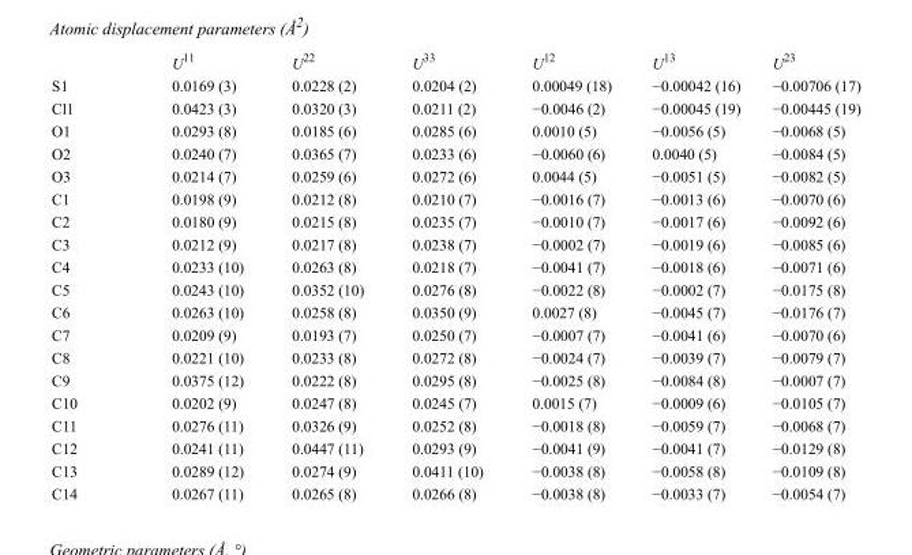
<table><thead><tr><td></td><td>U<sup>11</sup></td><td>U<sup>22</sup></td><td>U<sup>33</sup></td><td>U<sup>12</sup></td><td>U<sup>13</sup></td><td>U<sup>23</sup></td></tr></thead><tbody><tr><td>S1</td><td>0.0169 (3)</td><td>0.0228 (2)</td><td>0.0204 (2)</td><td>0.00049 (18)</td><td>−0.00042 (16)</td><td>−0.00706 (17)</td></tr><tr><td>Cl1</td><td>0.0423 (3)</td><td>0.0320 (3)</td><td>0.0211 (2)</td><td>−0.0046 (2)</td><td>−0.00045 (19)</td><td>−0.00445 (19)</td></tr><tr><td>O1</td><td>0.0293 (8)</td><td>0.0185 (6)</td><td>0.0285 (6)</td><td>0.0010 (5)</td><td>−0.0056 (5)</td><td>−0.0068 (5)</td></tr><tr><td>O2</td><td>0.0240 (7)</td><td>0.0365 (7)</td><td>0.0233 (6)</td><td>−0.0060 (6)</td><td>0.0040 (5)</td><td>−0.0084 (5)</td></tr><tr><td>O3</td><td>0.0214 (7)</td><td>0.0259 (6)</td><td>0.0272 (6)</td><td>0.0044 (5)</td><td>−0.0051 (5)</td><td>−0.0082 (5)</td></tr><tr><td>C1</td><td>0.0198 (9)</td><td>0.0212 (8)</td><td>0.0210 (7)</td><td>−0.0016 (7)</td><td>−0.0013 (6)</td><td>−0.0070 (6)</td></tr><tr><td>C2</td><td>0.0180 (9)</td><td>0.0215 (8)</td><td>0.0235 (7)</td><td>−0.0010 (7)</td><td>−0.0017 (6)</td><td>−0.0092 (6)</td></tr><tr><td>C3</td><td>0.0212 (9)</td><td>0.0217 (8)</td><td>0.0238 (7)</td><td>−0.0002 (7)</td><td>−0.0019 (6)</td><td>−0.0085 (6)</td></tr><tr><td>C4</td><td>0.0233 (10)</td><td>0.0263 (8)</td><td>0.0218 (7)</td><td>−0.0041 (7)</td><td>−0.0018 (6)</td><td>−0.0071 (6)</td></tr><tr><td>C5</td><td>0.0243 (10)</td><td>0.0352 (10)</td><td>0.0276 (8)</td><td>−0.0022 (8)</td><td>−0.0002 (7)</td><td>−0.0175 (8)</td></tr><tr><td>C6</td><td>0.0263 (10)</td><td>0.0258 (8)</td><td>0.0350 (9)</td><td>0.0027 (8)</td><td>−0.0045 (7)</td><td>−0.0176 (7)</td></tr><tr><td>C7</td><td>0.0209 (9)</td><td>0.0193 (7)</td><td>0.0250 (7)</td><td>−0.0007 (7)</td><td>−0.0041 (6)</td><td>−0.0070 (6)</td></tr><tr><td>C8</td><td>0.0221 (10)</td><td>0.0233 (8)</td><td>0.0272 (8)</td><td>−0.0024 (7)</td><td>−0.0039 (7)</td><td>−0.0079 (7)</td></tr><tr><td>C9</td><td>0.0375 (12)</td><td>0.0222 (8)</td><td>0.0295 (8)</td><td>−0.0025 (8)</td><td>−0.0084 (8)</td><td>−0.0007 (7)</td></tr><tr><td>C10</td><td>0.0202 (9)</td><td>0.0247 (8)</td><td>0.0245 (7)</td><td>0.0015 (7)</td><td>−0.0009 (6)</td><td>−0.0105 (7)</td></tr><tr><td>C11</td><td>0.0276 (11)</td><td>0.0326 (9)</td><td>0.0252 (8)</td><td>−0.0018 (8)</td><td>−0.0059 (7)</td><td>−0.0068 (7)</td></tr><tr><td>C12</td><td>0.0241 (11)</td><td>0.0447 (11)</td><td>0.0293 (9)</td><td>−0.0041 (9)</td><td>−0.0041 (7)</td><td>−0.0129 (8)</td></tr><tr><td>C13</td><td>0.0289 (12)</td><td>0.0274 (9)</td><td>0.0411 (10)</td><td>−0.0038 (8)</td><td>−0.0058 (8)</td><td>−0.0109 (8)</td></tr><tr><td>C14</td><td>0.0267 (11)</td><td>0.0265 (8)</td><td>0.0266 (8)</td><td>−0.0038 (8)</td><td>−0.0033 (7)</td><td>−0.0054 (7)</td></tr></tbody></table>